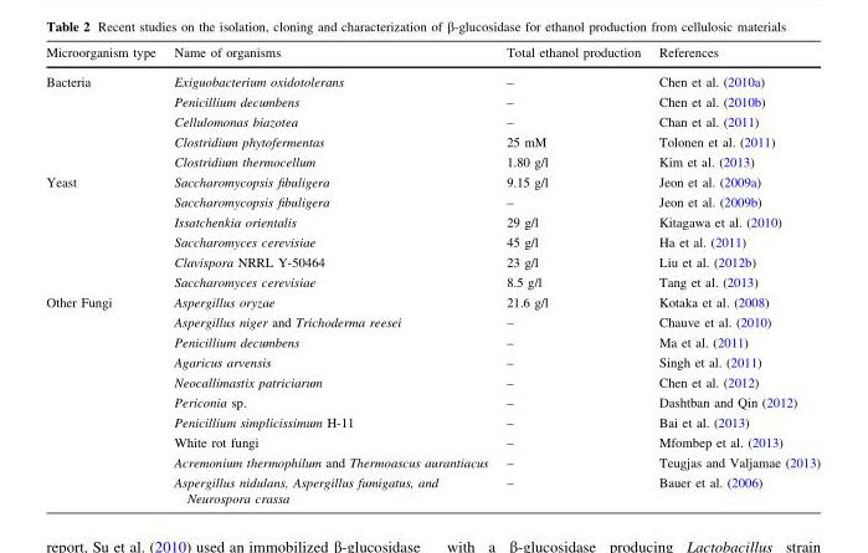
<table><thead><tr><td>Microorganism type</td><td>Name of organisms</td><td>Total ethanol production</td><td>References</td></tr></thead><tbody><tr><td rowspan="5">Bacteria</td><td>Exiguobacterium oxidotolerans</td><td>–</td><td>Chen et al. (2010a)</td></tr><tr><td>Penicillium decumbens</td><td>–</td><td>Chen et al. (2010b)</td></tr><tr><td>Cellulomonas biazotea</td><td>–</td><td>Chan et al. (2011)</td></tr><tr><td>Clostridium phytofermentas</td><td>25 mM</td><td>Tolonen et al. (2011)</td></tr><tr><td>Clostridium thermocellum</td><td>1.80 g/l</td><td>Kim et al. (2013)</td></tr><tr><td rowspan="6">Yeast</td><td>Saccharomycopsis fibuligera</td><td>9.15 g/l</td><td>Jeon et al. (2009a)</td></tr><tr><td>Saccharomycopsis fibuligera</td><td>–</td><td>Jeon et al. (2009b)</td></tr><tr><td>Issatchenkia orientalis</td><td>29 g/l</td><td>Kitagawa et al. (2010)</td></tr><tr><td>Saccharomyces cerevisiae</td><td>45 g/l</td><td>Ha et al. (2011)</td></tr><tr><td>Clavispora NRRL Y-50464</td><td>23 g/l</td><td>Liu et al. (2012b)</td></tr><tr><td>Saccharomyces cerevisiae</td><td>8.5 g/l</td><td>Tang et al. (2013)</td></tr><tr><td rowspan="10">Other Fungi</td><td>Aspergillus oryzae</td><td>21.6 g/l</td><td>Kotaka et al. (2008)</td></tr><tr><td>Aspergillus niger and Trichoderma reesei</td><td>–</td><td>Chauve et al. (2010)</td></tr><tr><td>Penicillium decumbens</td><td>–</td><td>Ma et al. (2011)</td></tr><tr><td>Agaricus arvensis</td><td>–</td><td>Singh et al. (2011)</td></tr><tr><td>Neocallimastix patriciarum</td><td>–</td><td>Chen et al. (2012)</td></tr><tr><td>Periconia sp.</td><td>–</td><td>Dashtban and Qin (2012)</td></tr><tr><td>Penicillium simplicissimum H-11</td><td>–</td><td>Bai et al. (2013)</td></tr><tr><td>White rot fungi</td><td>–</td><td>Mfombep et al. (2013)</td></tr><tr><td>Acremonium thermophilum and Thermoascus aurantiacus</td><td>–</td><td>Teugjas and Valjamae (2013)</td></tr><tr><td>Aspergillus nidulans, Aspergillus fumigatus, and Neurospora crassa</td><td>–</td><td>Bauer et al. (2006)</td></tr></tbody></table>